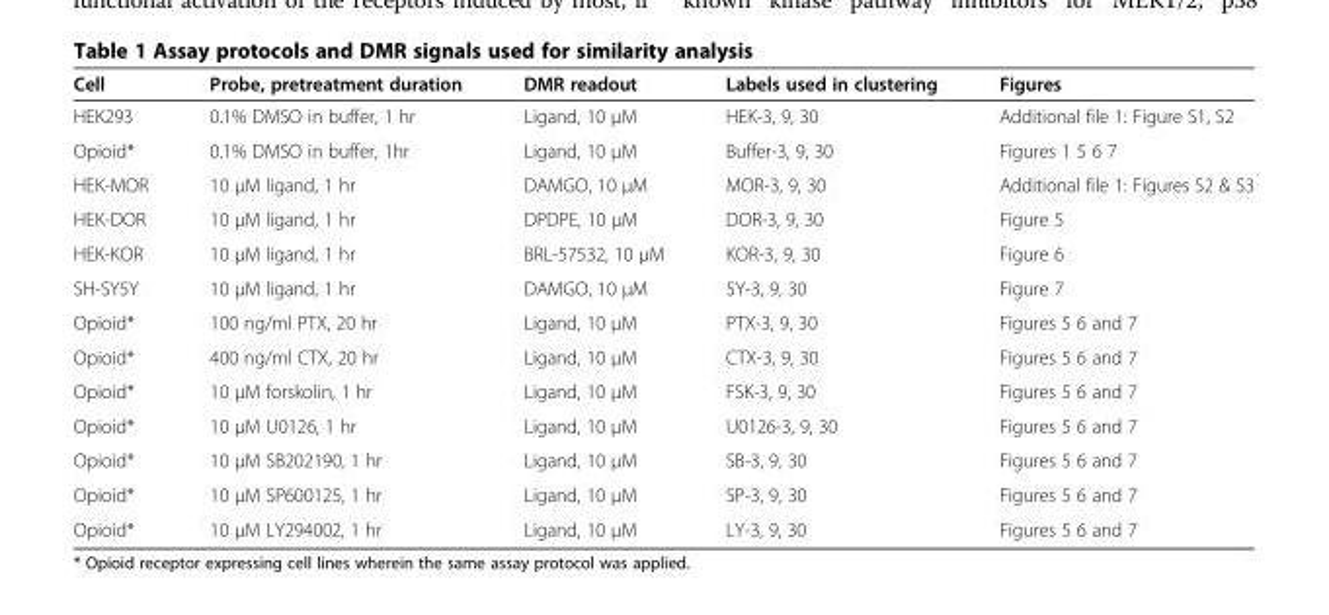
<table><thead><tr><td>Cell</td><td>Probe, pretreatment duration</td><td>DMR readout</td><td>Labels used in clustering</td><td>Figures</td></tr></thead><tbody><tr><td>HEK293</td><td>0.1% DMSO in buffer, 1 hr</td><td>Ligand, 10 μM</td><td>HEK-3, 9, 30</td><td>Additional file 1: Figure S1, S2</td></tr><tr><td>Opioid*</td><td>0.1% DMSO in buffer, 1hr</td><td>Ligand, 10 μM</td><td>Buffer-3, 9, 30</td><td>Figures 1 5 6 7</td></tr><tr><td>HEK-MOR</td><td>10 μM ligand, 1 hr</td><td>DAMGO, 10 μM</td><td>MOR-3, 9, 30</td><td>Additional file 1: Figures S2 &amp; S3</td></tr><tr><td>HEK-DOR</td><td>10 μM ligand, 1 hr</td><td>DPDPE, 10 μM</td><td>DOR-3, 9, 30</td><td>Figure 5</td></tr><tr><td>HEK-KOR</td><td>10 μM ligand, 1 hr</td><td>BRL-57532, 10 μM</td><td>KOR-3, 9, 30</td><td>Figure 6</td></tr><tr><td>SH-SY5Y</td><td>10 μM ligand, 1 hr</td><td>DAMGO, 10 μM</td><td>5Y-3, 9, 30</td><td>Figure 7</td></tr><tr><td>Opioid*</td><td>100 ng/ml PTX, 20 hr</td><td>Ligand, 10 μM</td><td>PTX-3, 9, 30</td><td>Figures 5 6 and 7</td></tr><tr><td>Opioid*</td><td>400 ng/ml CTX, 20 hr</td><td>Ligand, 10 μM</td><td>CTX-3, 9, 30</td><td>Figures 5 6 and 7</td></tr><tr><td>Opioid*</td><td>10 μM forskolin, 1 hr</td><td>Ligand, 10 μM</td><td>FSK-3, 9, 30</td><td>Figures 5 6 and 7</td></tr><tr><td>Opioid*</td><td>10 μM U0126, 1 hr</td><td>Ligand, 10 μM</td><td>U0126-3, 9, 30</td><td>Figures 5 6 and 7</td></tr><tr><td>Opioid*</td><td>10 μM SB202190, 1 hr</td><td>Ligand, 10 μM</td><td>SB-3, 9, 30</td><td>Figures 5 6 and 7</td></tr><tr><td>Opioid*</td><td>10 μM SP600125, 1 hr</td><td>Ligand, 10 μM</td><td>SP-3, 9, 30</td><td>Figures 5 6 and 7</td></tr><tr><td>Opioid*</td><td>10 μM LY294002, 1 hr</td><td>Ligand, 10 μM</td><td>LY-3, 9, 30</td><td>Figures 5 6 and 7</td></tr></tbody></table>